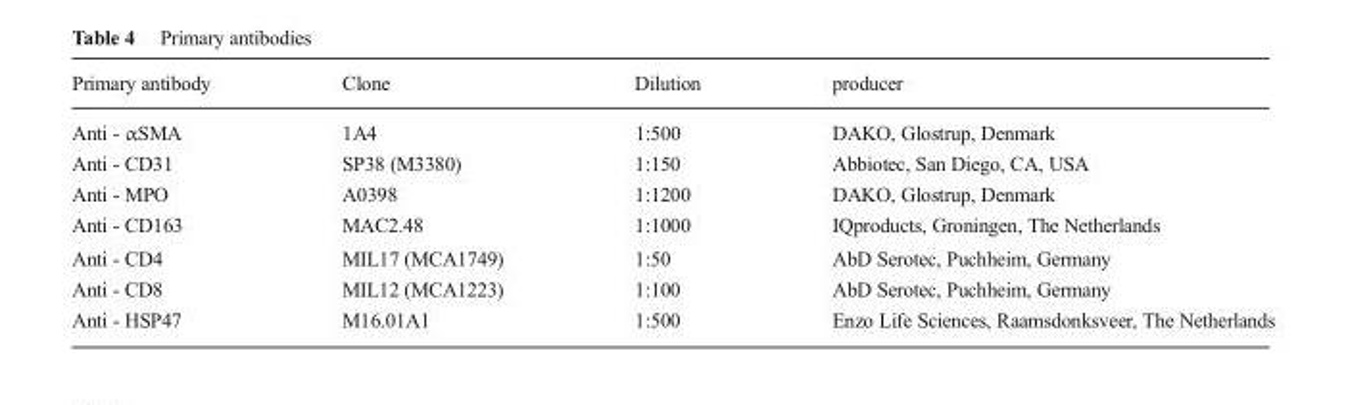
<table><thead><tr><td>Primary antibody</td><td>Clone</td><td>Dilution</td><td>producer</td></tr></thead><tbody><tr><td>Anti - αSMA</td><td>1A4</td><td>1:500</td><td>DAKO, Glostrup, Denmark</td></tr><tr><td>Anti - CD31</td><td>SP38 (M3380)</td><td>1:150</td><td>Abbiotec, San Diego, CA, USA</td></tr><tr><td>Anti - MPO</td><td>A0398</td><td>1:1200</td><td>DAKO, Glostrup, Denmark</td></tr><tr><td>Anti - CD163</td><td>MAC2.48</td><td>1:1000</td><td>IQproducts, Groningen, The Netherlands</td></tr><tr><td>Anti - CD4</td><td>MIL17 (MCA1749)</td><td>1:50</td><td>AbD Serotec, Puchheim, Germany</td></tr><tr><td>Anti - CD8</td><td>MIL12 (MCA1223)</td><td>1:100</td><td>AbD Serotec, Puchheim, Germany</td></tr><tr><td>Anti - HSP47</td><td>M16.01A1</td><td>1:500</td><td>Enzo Life Sciences, Raamsdonksveer, The Netherlands</td></tr></tbody></table>